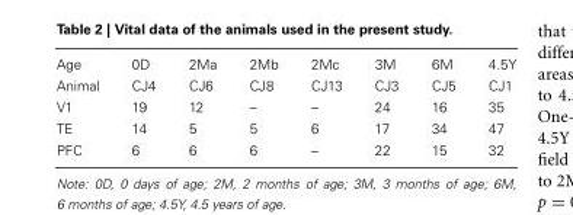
<table><tbody><tr><td>Age</td><td>0D</td><td>2Ma</td><td>2Mb</td><td>2Mc</td><td>3M</td><td>6M</td><td>4.5Y</td></tr><tr><td>Animal</td><td>CJ4</td><td>CJ6</td><td>CJ8</td><td>CJ13</td><td>CJ3</td><td>CJ5</td><td>CJ1</td></tr><tr><td>V1</td><td>19</td><td>12</td><td>–</td><td>–</td><td>24</td><td>16</td><td>35</td></tr><tr><td>TE</td><td>14</td><td>5</td><td>5</td><td>6</td><td>17</td><td>34</td><td>47</td></tr><tr><td>PFC</td><td>6</td><td>6</td><td>6</td><td>–</td><td>22</td><td>15</td><td>32</td></tr></tbody></table>